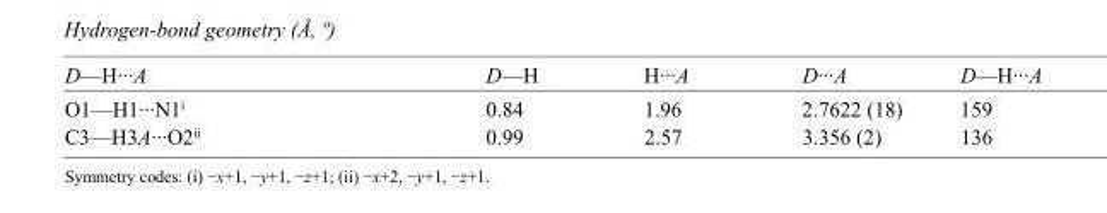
<table><tbody><tr><td>D—H···A</td><td>D—H</td><td>H···A</td><td>D···A</td><td>D—H···A</td></tr><tr><td>O1—H1···N1<sup>i</sup></td><td>0.84</td><td>1.96</td><td>2.7622 (18)</td><td>159</td></tr><tr><td>C3—H3A···O2<sup>ii</sup></td><td>0.99</td><td>2.57</td><td>3.356 (2)</td><td>136</td></tr></tbody></table>